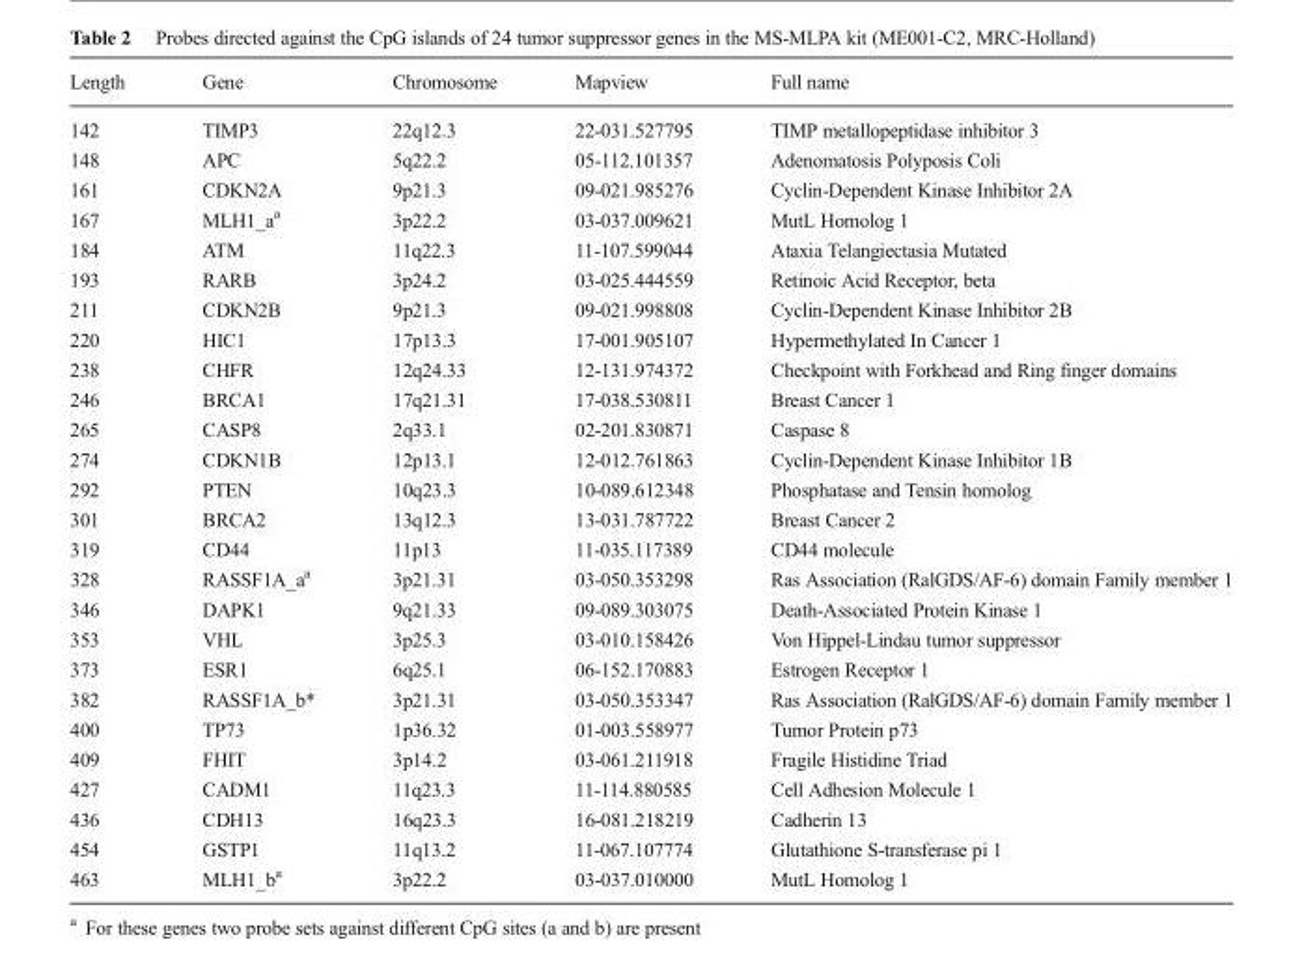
<table><thead><tr><td>Length</td><td>Gene</td><td>Chromosome</td><td>Mapview</td><td>Full name</td></tr></thead><tbody><tr><td>142</td><td>TIMP3</td><td>22q12.3</td><td>22-031.527795</td><td>TIMP metallopeptidase inhibitor 3</td></tr><tr><td>148</td><td>APC</td><td>5q22.2</td><td>05-112.101357</td><td>Adenomatosis Polyposis Coli</td></tr><tr><td>161</td><td>CDKN2A</td><td>9p21.3</td><td>09-021.985276</td><td>Cyclin-Dependent Kinase Inhibitor 2A</td></tr><tr><td>167</td><td>MLH1_a<sup>a</sup></td><td>3p22.2</td><td>03-037.009621</td><td>MutL Homolog 1</td></tr><tr><td>184</td><td>ATM</td><td>11q22.3</td><td>11-107.599044</td><td>Ataxia Telangiectasia Mutated</td></tr><tr><td>193</td><td>RARB</td><td>3p24.2</td><td>03-025.444559</td><td>Retinoic Acid Receptor, beta</td></tr><tr><td>211</td><td>CDKN2B</td><td>9p21.3</td><td>09-021.998808</td><td>Cyclin-Dependent Kinase Inhibitor 2B</td></tr><tr><td>220</td><td>HIC1</td><td>17p13.3</td><td>17-001.905107</td><td>Hypermethylated In Cancer 1</td></tr><tr><td>238</td><td>CHFR</td><td>12q24.33</td><td>12-131.974372</td><td>Checkpoint with Forkhead and Ring finger domains</td></tr><tr><td>246</td><td>BRCA1</td><td>17q21.31</td><td>17-038.530811</td><td>Breast Cancer 1</td></tr><tr><td>265</td><td>CASP8</td><td>2q33.1</td><td>02-201.830871</td><td>Caspase 8</td></tr><tr><td>274</td><td>CDKN1B</td><td>12p13.1</td><td>12-012.761863</td><td>Cyclin-Dependent Kinase Inhibitor 1B</td></tr><tr><td>292</td><td>PTEN</td><td>10q23.3</td><td>10-089.612348</td><td>Phosphatase and Tensin homolog</td></tr><tr><td>301</td><td>BRCA2</td><td>13q12.3</td><td>13-031.787722</td><td>Breast Cancer 2</td></tr><tr><td>319</td><td>CD44</td><td>11p13</td><td>11-035.117389</td><td>CD44 molecule</td></tr><tr><td>328</td><td>RASSF1A_a<sup>a</sup></td><td>3p21.31</td><td>03-050.353298</td><td>Ras Association (RalGDS/AF-6) domain Family member 1</td></tr><tr><td>346</td><td>DAPK1</td><td>9q21.33</td><td>09-089.303075</td><td>Death-Associated Protein Kinase 1</td></tr><tr><td>353</td><td>VHL</td><td>3p25.3</td><td>03-010.158426</td><td>Von Hippel-Lindau tumor suppressor</td></tr><tr><td>373</td><td>ESR1</td><td>6q25.1</td><td>06-152.170883</td><td>Estrogen Receptor 1</td></tr><tr><td>382</td><td>RASSF1A_b*</td><td>3p21.31</td><td>03-050.353347</td><td>Ras Association (RalGDS/AF-6) domain Family member 1</td></tr><tr><td>400</td><td>TP73</td><td>1p36.32</td><td>01-003.558977</td><td>Tumor Protein p73</td></tr><tr><td>409</td><td>FHIT</td><td>3p14.2</td><td>03-061.211918</td><td>Fragile Histidine Triad</td></tr><tr><td>427</td><td>CADM1</td><td>11q23.3</td><td>11-114.880585</td><td>Cell Adhesion Molecule 1</td></tr><tr><td>436</td><td>CDH13</td><td>16q23.3</td><td>16-081.218219</td><td>Cadherin 13</td></tr><tr><td>454</td><td>GSTP1</td><td>11q13.2</td><td>11-067.107774</td><td>Glutathione S-transferase pi 1</td></tr><tr><td>463</td><td>MLH1_b<sup>a</sup></td><td>3p22.2</td><td>03-037.010000</td><td>MutL Homolog 1</td></tr></tbody></table>